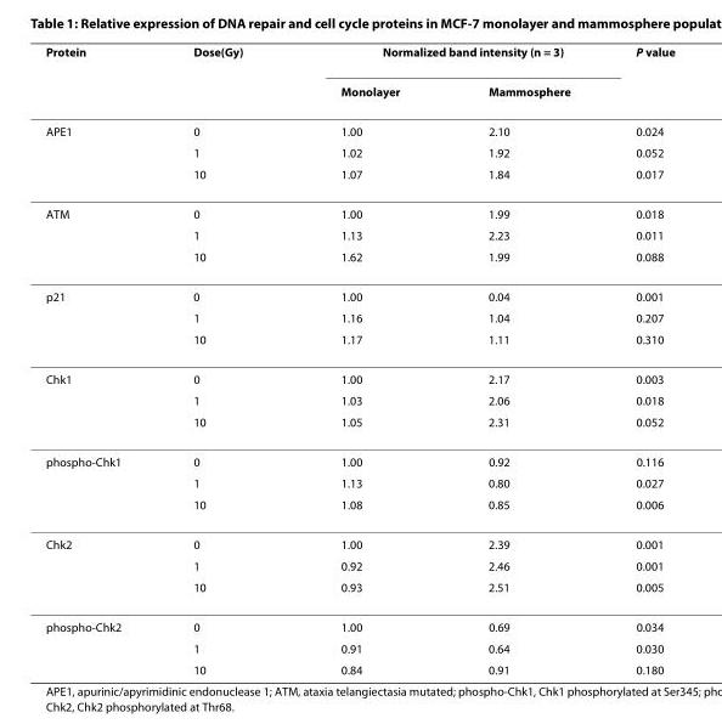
<table><thead><tr><td rowspan="2">Protein</td><td rowspan="2">Dose(Gy)</td><td colspan="2">Normalized band intensity (n = 3)</td><td rowspan="2">P value</td></tr><tr><td>Monolayer</td><td>Mammosphere</td></tr></thead><tbody><tr><td rowspan="3">APE1</td><td>0</td><td>1.00</td><td>2.10</td><td>0.024</td></tr><tr><td>1</td><td>1.02</td><td>1.92</td><td>0.052</td></tr><tr><td>10</td><td>1.07</td><td>1.84</td><td>0.017</td></tr><tr><td rowspan="3">ATM</td><td>0</td><td>1.00</td><td>1.99</td><td>0.018</td></tr><tr><td>1</td><td>1.13</td><td>2.23</td><td>0.011</td></tr><tr><td>10</td><td>1.62</td><td>1.99</td><td>0.088</td></tr><tr><td rowspan="3">p21</td><td>0</td><td>1.00</td><td>0.04</td><td>0.001</td></tr><tr><td>1</td><td>1.16</td><td>1.04</td><td>0.207</td></tr><tr><td>10</td><td>1.17</td><td>1.11</td><td>0.310</td></tr><tr><td rowspan="3">Chk1</td><td>0</td><td>1.00</td><td>2.17</td><td>0.003</td></tr><tr><td>1</td><td>1.03</td><td>2.06</td><td>0.018</td></tr><tr><td>10</td><td>1.05</td><td>2.31</td><td>0.052</td></tr><tr><td rowspan="3">phospho-Chk1</td><td>0</td><td>1.00</td><td>0.92</td><td>0.116</td></tr><tr><td>1</td><td>1.13</td><td>0.80</td><td>0.027</td></tr><tr><td>10</td><td>1.08</td><td>0.85</td><td>0.006</td></tr><tr><td rowspan="3">Chk2</td><td>0</td><td>1.00</td><td>2.39</td><td>0.001</td></tr><tr><td>1</td><td>0.92</td><td>2.46</td><td>0.001</td></tr><tr><td>10</td><td>0.93</td><td>2.51</td><td>0.005</td></tr><tr><td rowspan="3">phospho-Chk2</td><td>0</td><td>1.00</td><td>0.69</td><td>0.034</td></tr><tr><td>1</td><td>0.91</td><td>0.64</td><td>0.030</td></tr><tr><td>10</td><td>0.84</td><td>0.91</td><td>0.180</td></tr></tbody></table>